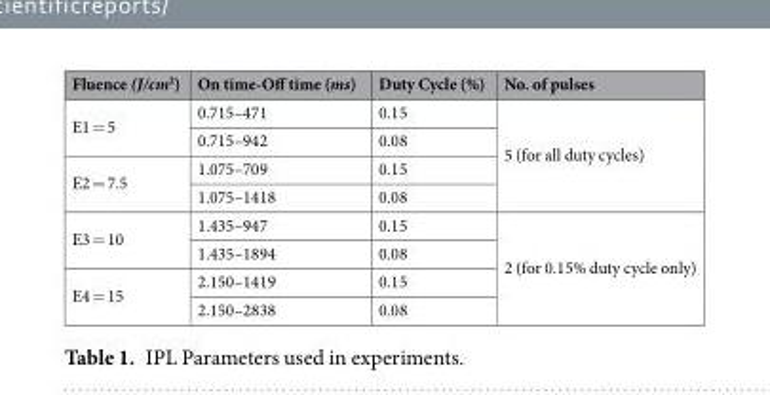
<table><thead><tr><td>Fluence (J/cm<sup>2</sup>)</td><td>On time-Off time (ms)</td><td>Duty Cycle (%)</td><td>No. of pulses</td></tr></thead><tbody><tr><td rowspan="2">E1 = 5</td><td>0.715–471</td><td>0.15</td><td rowspan="4">5 (for all duty cycles)</td></tr><tr><td>0.715–942</td><td>0.08</td></tr><tr><td rowspan="2">E2 = 7.5</td><td>1.075–709</td><td>0.15</td></tr><tr><td>1.075–1418</td><td>0.08</td></tr><tr><td rowspan="2">E3 = 10</td><td>1.435–947</td><td>0.15</td><td rowspan="4">2 (for 0.15% duty cycle only)</td></tr><tr><td>1.435–1894</td><td>0.08</td></tr><tr><td rowspan="2">E4 = 15</td><td>2.150–1419</td><td>0.15</td></tr><tr><td>2.150–2838</td><td>0.08</td></tr></tbody></table>